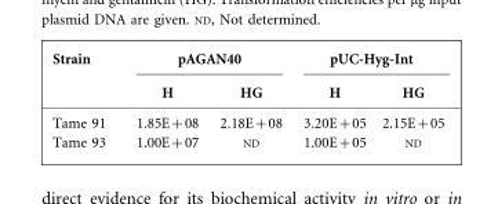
<table><thead><tr><td rowspan="2">Strain</td><td colspan="2">pAGAN40</td><td colspan="2">pUC-Hyg-Int</td></tr><tr><td>H</td><td>HG</td><td>H</td><td>HG</td></tr></thead><tbody><tr><td>Tame 91</td><td>1.85E+08</td><td>2.18E+08</td><td>3.20E+05</td><td>2.15E+05</td></tr><tr><td>Tame 93</td><td>1.00E+07</td><td>ND</td><td>1.00E+05</td><td>ND</td></tr></tbody></table>